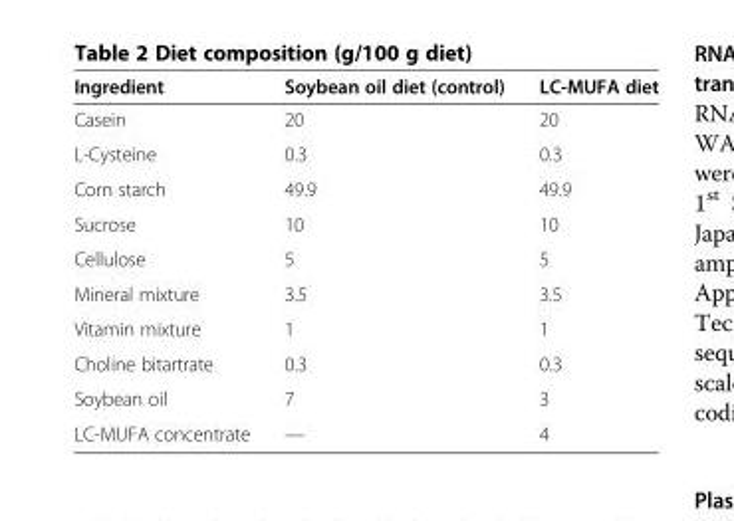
<table><thead><tr><td>Ingredient</td><td>Soybean oil diet (control)</td><td>LC-MUFA diet</td></tr></thead><tbody><tr><td>Casein</td><td>20</td><td>20</td></tr><tr><td>L-Cysteine</td><td>0.3</td><td>0.3</td></tr><tr><td>Corn starch</td><td>49.9</td><td>49.9</td></tr><tr><td>Sucrose</td><td>10</td><td>10</td></tr><tr><td>Cellulose</td><td>5</td><td>5</td></tr><tr><td>Mineral mixture</td><td>3.5</td><td>3.5</td></tr><tr><td>Vitamin mixture</td><td>1</td><td>1</td></tr><tr><td>Choline bitartrate</td><td>0.3</td><td>0.3</td></tr><tr><td>Soybean oil</td><td>7</td><td>3</td></tr><tr><td>LC-MUFA concentrate</td><td>—</td><td>4</td></tr></tbody></table>